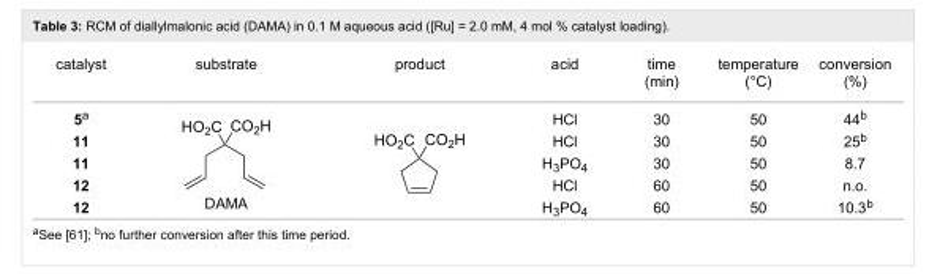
<table><tbody><tr><td>catalyst</td><td>substrate</td><td>product</td><td>acid</td><td>time (min)</td><td>temperature (°C)</td><td>conversion (%)</td></tr><tr><td>5<sup>a</sup></td><td rowspan="5">DAMA</td><td rowspan="5"></td><td>HCl</td><td>30</td><td>50</td><td>44<sup>b</sup></td></tr><tr><td>11</td><td>HCl</td><td>30</td><td>50</td><td>25<sup>b</sup></td></tr><tr><td>11</td><td>H<sub>3</sub>PO<sub>4</sub></td><td>30</td><td>50</td><td>8.7</td></tr><tr><td>12</td><td>HCl</td><td>60</td><td>50</td><td>n.o.</td></tr><tr><td>12</td><td>H<sub>3</sub>PO<sub>4</sub></td><td>60</td><td>50</td><td>10.3<sup>b</sup></td></tr></tbody></table>